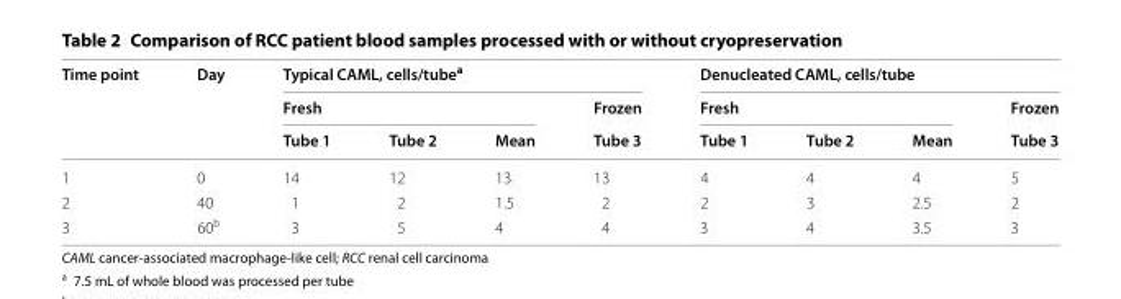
<table><thead><tr><td rowspan="3">Time point</td><td rowspan="3">Day</td><td colspan="4">Typical CAML, cells/tube<sup>a</sup></td><td colspan="4">Denucleated CAML, cells/tube</td></tr><tr><td colspan="3">Fresh</td><td rowspan="2">Frozen Tube 3</td><td colspan="3">Fresh</td><td rowspan="2">Frozen Tube 3</td></tr><tr><td>Tube 1</td><td>Tube 2</td><td>Mean</td><td>Tube 1</td><td>Tube 2</td><td>Mean</td></tr></thead><tbody><tr><td>1</td><td>0</td><td>14</td><td>12</td><td>13</td><td>13</td><td>4</td><td>4</td><td>4</td><td>5</td></tr><tr><td>2</td><td>40</td><td>1</td><td>2</td><td>1.5</td><td>2</td><td>2</td><td>3</td><td>2.5</td><td>2</td></tr><tr><td>3</td><td>60<sup>b</sup></td><td>3</td><td>5</td><td>4</td><td>4</td><td>3</td><td>4</td><td>3.5</td><td>3</td></tr></tbody></table>